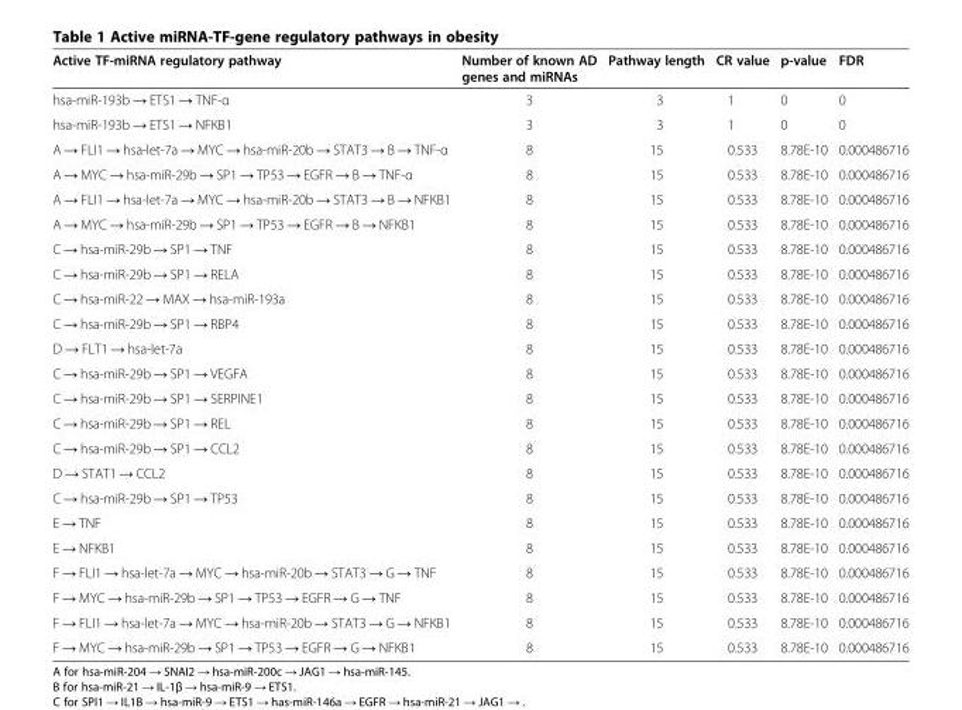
<table><thead><tr><td>Active TF-miRNA regulatory pathway</td><td>Number of known AD genes and miRNAs</td><td>Pathway length</td><td>CR value</td><td>p-value</td><td>FDR</td></tr></thead><tbody><tr><td>hsa-miR-193b → ETS1 → TNF-α</td><td>3</td><td>3</td><td>1</td><td>0</td><td>0</td></tr><tr><td>hsa-miR-193b → ETS1 → NFKB1</td><td>3</td><td>3</td><td>1</td><td>0</td><td>0</td></tr><tr><td>A → FLI1 → hsa-let-7a → MYC → hsa-miR-20b → STAT3 → B → TNF-α</td><td>8</td><td>15</td><td>0.533</td><td>8.78E-10</td><td>0.000486716</td></tr><tr><td>A → MYC → hsa-miR-29b → SP1 → TP53 → EGFR → B → TNF-α</td><td>8</td><td>15</td><td>0.533</td><td>8.78E-10</td><td>0.000486716</td></tr><tr><td>A → FLI1 → hsa-let-7a → MYC → hsa-miR-20b → STAT3 → B → NFKB1</td><td>8</td><td>15</td><td>0.533</td><td>8.78E-10</td><td>0.000486716</td></tr><tr><td>A → MYC → hsa-miR-29b → SP1 → TP53 → EGFR → B → NFKB1</td><td>8</td><td>15</td><td>0.533</td><td>8.78E-10</td><td>0.000486716</td></tr><tr><td>C → hsa-miR-29b → SP1 → TNF</td><td>8</td><td>15</td><td>0.533</td><td>8.78E-10</td><td>0.000486716</td></tr><tr><td>C → hsa-miR-29b → SP1 → RELA</td><td>8</td><td>15</td><td>0.533</td><td>8.78E-10</td><td>0.000486716</td></tr><tr><td>C → hsa-miR-22 → MAX → hsa-miR-193a</td><td>8</td><td>15</td><td>0.533</td><td>8.78E-10</td><td>0.000486716</td></tr><tr><td>C → hsa-miR-29b → SP1 → RBP4</td><td>8</td><td>15</td><td>0.533</td><td>8.78E-10</td><td>0.000486716</td></tr><tr><td>D → FLT1 → hsa-let-7a</td><td>8</td><td>15</td><td>0.533</td><td>8.78E-10</td><td>0.000486716</td></tr><tr><td>C → hsa-miR-29b → SP1 → VEGFA</td><td>8</td><td>15</td><td>0.533</td><td>8.78E-10</td><td>0.000486716</td></tr><tr><td>C → hsa-miR-29b → SP1 → SERPINE1</td><td>8</td><td>15</td><td>0.533</td><td>8.78E-10</td><td>0.000486716</td></tr><tr><td>C → hsa-miR-29b → SP1 → REL</td><td>8</td><td>15</td><td>0.533</td><td>8.78E-10</td><td>0.000486716</td></tr><tr><td>C → hsa-miR-29b → SP1 → CCL2</td><td>8</td><td>15</td><td>0.533</td><td>8.78E-10</td><td>0.000486716</td></tr><tr><td>D → STAT1 → CCL2</td><td>8</td><td>15</td><td>0.533</td><td>8.78E-10</td><td>0.000486716</td></tr><tr><td>C → hsa-miR-29b → SP1 → TP53</td><td>8</td><td>15</td><td>0.533</td><td>8.78E-10</td><td>0.000486716</td></tr><tr><td>E → TNF</td><td>8</td><td>15</td><td>0.533</td><td>8.78E-10</td><td>0.000486716</td></tr><tr><td>E → NFKB1</td><td>8</td><td>15</td><td>0.533</td><td>8.78E-10</td><td>0.000486716</td></tr><tr><td>F → FLI1 → hsa-let-7a → MYC → hsa-miR-20b → STAT3 → G → TNF</td><td>8</td><td>15</td><td>0.533</td><td>8.78E-10</td><td>0.000486716</td></tr><tr><td>F → MYC → hsa-miR-29b → SP1 → TP53 → EGFR → G → TNF</td><td>8</td><td>15</td><td>0.533</td><td>8.78E-10</td><td>0.000486716</td></tr><tr><td>F → FLI1 → hsa-let-7a → MYC → hsa-miR-20b → STAT3 → G → NFKB1</td><td>8</td><td>15</td><td>0.533</td><td>8.78E-10</td><td>0.000486716</td></tr><tr><td>F → MYC → hsa-miR-29b → SP1 → TP53 → EGFR → G → NFKB1</td><td>8</td><td>15</td><td>0.533</td><td>8.78E-10</td><td>0.000486716</td></tr></tbody></table>